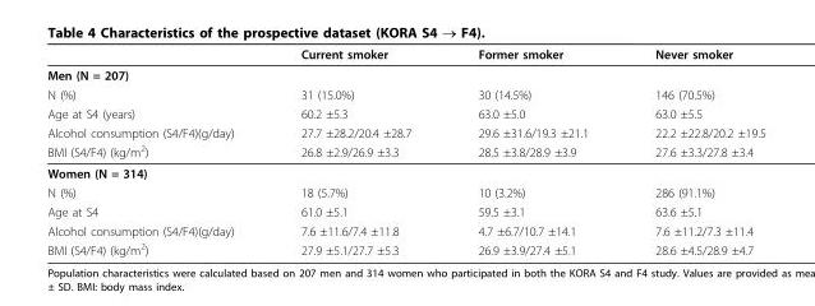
<table><thead><tr><td></td><td>Current smoker</td><td>Former smoker</td><td>Never smoker</td></tr></thead><tbody><tr><td colspan="4">Men (N = 207)</td></tr><tr><td>N (%)</td><td>31 (15.0%)</td><td>30 (14.5%)</td><td>146 (70.5%)</td></tr><tr><td>Age at S4 (years)</td><td>60.2 ±5.3</td><td>63.0 ±5.0</td><td>63.0 ±5.5</td></tr><tr><td>Alcohol consumption (S4/F4)(g/day)</td><td>27.7 ±28.2/20.4 ±28.7</td><td>29.6 ±31.6/19.3 ±21.1</td><td>22.2 ±22.8/20.2 ±19.5</td></tr><tr><td>BMI (S4/F4) (kg/m<sup>2</sup>)</td><td>26.8 ±2.9/26.9 ±3.3</td><td>28.5 ±3.8/28.9 ±3.9</td><td>27.6 ±3.3/27.8 ±3.4</td></tr><tr><td colspan="4">Women (N = 314)</td></tr><tr><td>N (%)</td><td>18 (5.7%)</td><td>10 (3.2%)</td><td>286 (91.1%)</td></tr><tr><td>Age at S4</td><td>61.0 ±5.1</td><td>59.5 ±3.1</td><td>63.6 ±5.1</td></tr><tr><td>Alcohol consumption (S4/F4)(g/day)</td><td>7.6 ±11.6/7.4 ±11.8</td><td>4.7 ±6.7/10.7 ±14.1</td><td>7.6 ±11.2/7.3 ±11.4</td></tr><tr><td>BMI (S4/F4) (kg/m<sup>2</sup>)</td><td>27.9 ±5.1/27.7 ±5.3</td><td>26.9 ±3.9/27.4 ±5.1</td><td>28.6 ±4.5/28.9 ±4.7</td></tr></tbody></table>